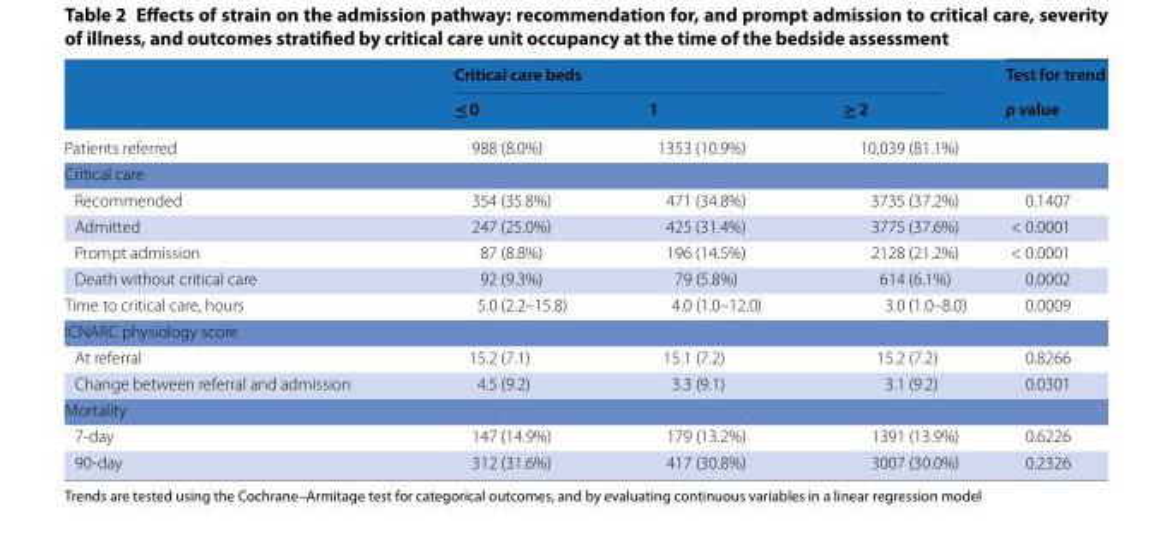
<table><thead><tr><td rowspan="2"></td><td colspan="3">Critical care beds</td><td rowspan="2">Test for trend p value</td></tr><tr><td>≤ 0</td><td>1</td><td>≥ 2</td></tr></thead><tbody><tr><td>Patients referred</td><td>988 (8.0%)</td><td>1353 (10.9%)</td><td>10,039 (81.1%)</td><td></td></tr><tr><td colspan="5">Critical care</td></tr><tr><td>Recommended</td><td>354 (35.8%)</td><td>471 (34.8%)</td><td>3735 (37.2%)</td><td>0.1407</td></tr><tr><td>Admitted</td><td>247 (25.0%)</td><td>425 (31.4%)</td><td>3775 (37.6%)</td><td>&lt; 0.0001</td></tr><tr><td>Prompt admission</td><td>87 (8.8%)</td><td>196 (14.5%)</td><td>2128 (21.2%)</td><td>&lt; 0.0001</td></tr><tr><td>Death without critical care</td><td>92 (9.3%)</td><td>79 (5.8%)</td><td>614 (6.1%)</td><td>0.0002</td></tr><tr><td>Time to critical care, hours</td><td>5.0 (2.2–15.8)</td><td>4.0 (1.0–12.0)</td><td>3.0 (1.0–8.0)</td><td>0.0009</td></tr><tr><td colspan="5">ICNARC physiology score</td></tr><tr><td>At referral</td><td>15.2 (7.1)</td><td>15.1 (7.2)</td><td>15.2 (7.2)</td><td>0.8266</td></tr><tr><td>Change between referral and admission</td><td>4.5 (9.2)</td><td>3.3 (9.1)</td><td>3.1 (9.2)</td><td>0.0301</td></tr><tr><td colspan="5">Mortality</td></tr><tr><td>7-day</td><td>147 (14.9%)</td><td>179 (13.2%)</td><td>1391 (13.9%)</td><td>0.6226</td></tr><tr><td>90-day</td><td>312 (31.6%)</td><td>417 (30.8%)</td><td>3007 (30.0%)</td><td>0.2326</td></tr></tbody></table>